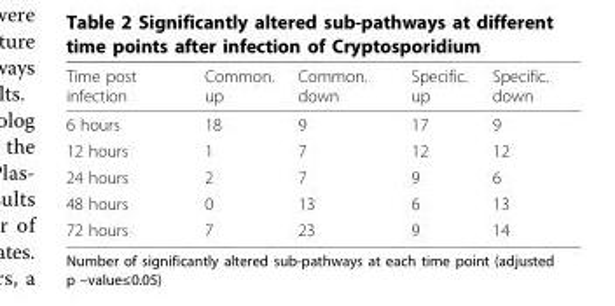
<table><thead><tr><td>Time post infection</td><td>Common. up</td><td>Common. down</td><td>Specific. up</td><td>Specific. down</td></tr></thead><tbody><tr><td>6 hours</td><td>18</td><td>9</td><td>17</td><td>9</td></tr><tr><td>12 hours</td><td>1</td><td>7</td><td>12</td><td>12</td></tr><tr><td>24 hours</td><td>2</td><td>7</td><td>9</td><td>6</td></tr><tr><td>48 hours</td><td>0</td><td>13</td><td>6</td><td>13</td></tr><tr><td>72 hours</td><td>7</td><td>23</td><td>9</td><td>14</td></tr></tbody></table>